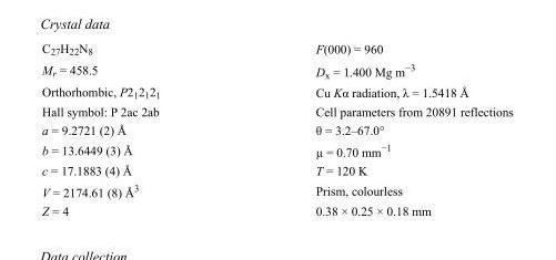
<table><tbody><tr><td>C<sub>27</sub>H<sub>22</sub>N<sub>8</sub></td><td>F(000) = 960</td></tr><tr><td>M<sub>r</sub> = 458.5</td><td>D<sub>x</sub> = 1.400 Mg m<sup>−3</sup></td></tr><tr><td>Orthorhombic, P2<sub>1</sub>2<sub>1</sub>2<sub>1</sub></td><td>Cu Kα radiation, λ = 1.5418 Å</td></tr><tr><td>Hall symbol: P 2ac 2ab</td><td>Cell parameters from 20891 reflections</td></tr><tr><td>a = 9.2721 (2) Å</td><td>θ = 3.2–67.0°</td></tr><tr><td>b = 13.6449 (3) Å</td><td>µ = 0.70 mm<sup>−1</sup></td></tr><tr><td>c = 17.1883 (4) Å</td><td>T = 120 K</td></tr><tr><td>V = 2174.61 (8) Å<sup>3</sup></td><td>Prism, colourless</td></tr><tr><td>Z = 4</td><td>0.38 × 0.25 × 0.18 mm</td></tr></tbody></table>